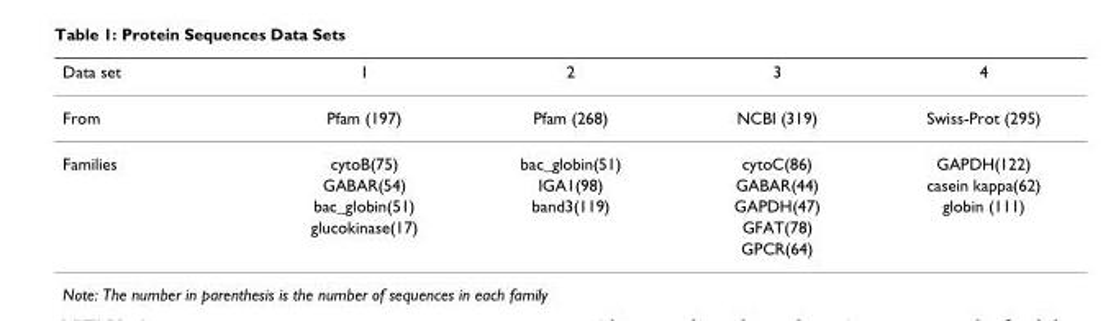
<table><thead><tr><td>Data set</td><td>1</td><td>2</td><td>3</td><td>4</td></tr></thead><tbody><tr><td>From</td><td>Pfam (197)</td><td>Pfam (268)</td><td>NCBI (319)</td><td>Swiss-Prot (295)</td></tr><tr><td rowspan="5">Families</td><td>cytoB(75)</td><td>bac_globin(51)</td><td>cytoC(86)</td><td>GAPDH(122)</td></tr><tr><td>GABAR(54)</td><td>IGA1(98)</td><td>GABAR(44)</td><td>casein kappa(62)</td></tr><tr><td>bac_globin(51)</td><td>band3(119)</td><td>GAPDH(47)</td><td>globin (111)</td></tr><tr><td>glucokinase(17)</td><td></td><td>GFAT(78)</td><td></td></tr><tr><td></td><td></td><td>GPCR(64)</td><td></td></tr></tbody></table>